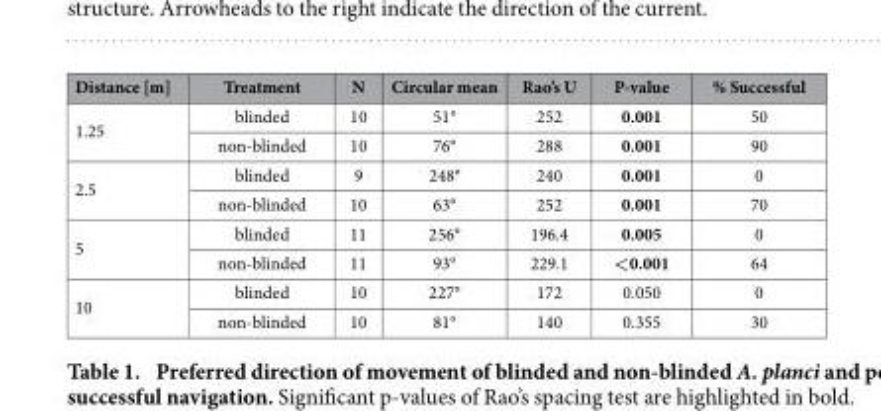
<table><thead><tr><td>Distance [m]</td><td>Treatment</td><td>N</td><td>Circular mean</td><td>Rao’s U</td><td>P-value</td><td>% Successful</td></tr></thead><tbody><tr><td rowspan="2">1.25</td><td>blinded</td><td>10</td><td>51°</td><td>252</td><td>0.001</td><td>50</td></tr><tr><td>non-blinded</td><td>10</td><td>76°</td><td>288</td><td>0.001</td><td>90</td></tr><tr><td rowspan="2">2.5</td><td>blinded</td><td>9</td><td>248°</td><td>240</td><td>0.001</td><td>0</td></tr><tr><td>non-blinded</td><td>10</td><td>63°</td><td>252</td><td>0.001</td><td>70</td></tr><tr><td rowspan="2">5</td><td>blinded</td><td>11</td><td>256°</td><td>196.4</td><td>0.005</td><td>0</td></tr><tr><td>non-blinded</td><td>11</td><td>93°</td><td>229.1</td><td>&lt;0.001</td><td>64</td></tr><tr><td rowspan="2">10</td><td>blinded</td><td>10</td><td>227°</td><td>172</td><td>0.050</td><td>0</td></tr><tr><td>non-blinded</td><td>10</td><td>81°</td><td>140</td><td>0.355</td><td>30</td></tr></tbody></table>